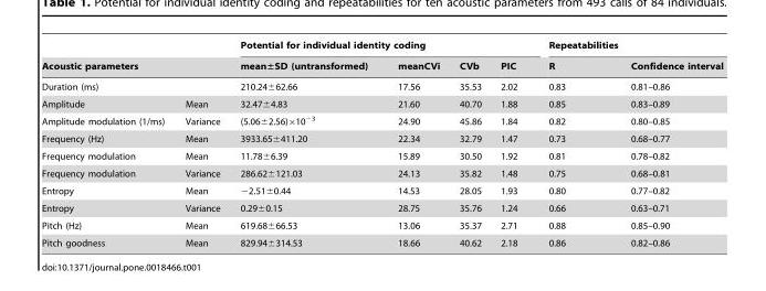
<table><thead><tr><td rowspan="2">Acoustic parameters</td><td rowspan="2"></td><td colspan="4">Potential for individual identity coding</td><td colspan="2">Repeatabilities</td></tr><tr><td>mean±SD (untransformed)</td><td>meanCVi</td><td>CVb</td><td>PIC</td><td>R</td><td>Confidence interval</td></tr></thead><tbody><tr><td>Duration (ms)</td><td></td><td>210.24±62.66</td><td>17.56</td><td>35.53</td><td>2.02</td><td>0.83</td><td>0.81–0.86</td></tr><tr><td>Amplitude</td><td>Mean</td><td>32.47±4.83</td><td>21.60</td><td>40.70</td><td>1.88</td><td>0.85</td><td>0.83–0.89</td></tr><tr><td>Amplitude modulation (1/ms)</td><td>Variance</td><td>(5.06±2.56)×10<sup>−3</sup></td><td>24.90</td><td>45.86</td><td>1.84</td><td>0.82</td><td>0.80–0.85</td></tr><tr><td>Frequency (Hz)</td><td>Mean</td><td>3933.65±411.20</td><td>22.34</td><td>32.79</td><td>1.47</td><td>0.73</td><td>0.68–0.77</td></tr><tr><td>Frequency modulation</td><td>Mean</td><td>11.78±6.39</td><td>15.89</td><td>30.50</td><td>1.92</td><td>0.81</td><td>0.78–0.82</td></tr><tr><td>Frequency modulation</td><td>Variance</td><td>286.62±121.03</td><td>24.13</td><td>35.82</td><td>1.48</td><td>0.75</td><td>0.68–0.81</td></tr><tr><td>Entropy</td><td>Mean</td><td>−2.51±0.44</td><td>14.53</td><td>28.05</td><td>1.93</td><td>0.80</td><td>0.77–0.82</td></tr><tr><td>Entropy</td><td>Variance</td><td>0.29±0.15</td><td>28.75</td><td>35.76</td><td>1.24</td><td>0.66</td><td>0.63–0.71</td></tr><tr><td>Pitch (Hz)</td><td>Mean</td><td>619.68±66.53</td><td>13.06</td><td>35.37</td><td>2.71</td><td>0.88</td><td>0.85–0.90</td></tr><tr><td>Pitch goodness</td><td>Mean</td><td>829.94±314.53</td><td>18.66</td><td>40.62</td><td>2.18</td><td>0.86</td><td>0.82–0.86</td></tr></tbody></table>